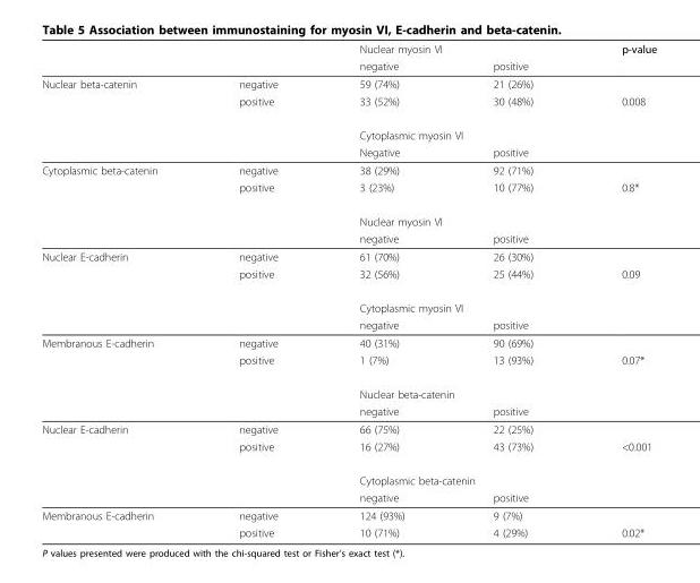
<table><thead><tr><td rowspan="2"></td><td rowspan="2"></td><td colspan="2">Nuclear myosin VI</td><td rowspan="2">p-value</td></tr><tr><td>negative</td><td>positive</td></tr></thead><tbody><tr><td rowspan="4">Nuclear beta-catenin</td><td>negative</td><td>59 (74%)</td><td>21 (26%)</td><td></td></tr><tr><td>positive</td><td>33 (52%)</td><td>30 (48%)</td><td>0.008</td></tr><tr><td></td><td colspan="2">Cytoplasmic myosin VI</td><td></td></tr><tr><td></td><td>Negative</td><td>positive</td><td></td></tr><tr><td rowspan="4">Cytoplasmic beta-catenin</td><td>negative</td><td>38 (29%)</td><td>92 (71%)</td><td></td></tr><tr><td>positive</td><td>3 (23%)</td><td>10 (77%)</td><td>0.8*</td></tr><tr><td></td><td colspan="2">Nuclear myosin VI</td><td></td></tr><tr><td></td><td>negative</td><td>positive</td><td></td></tr><tr><td rowspan="4">Nuclear E-cadherin</td><td>negative</td><td>61 (70%)</td><td>26 (30%)</td><td></td></tr><tr><td>positive</td><td>32 (56%)</td><td>25 (44%)</td><td>0.09</td></tr><tr><td></td><td colspan="2">Cytoplasmic myosin VI</td><td></td></tr><tr><td></td><td>negative</td><td>positive</td><td></td></tr><tr><td rowspan="4">Membranous E-cadherin</td><td>negative</td><td>40 (31%)</td><td>90 (69%)</td><td></td></tr><tr><td>positive</td><td>1 (7%)</td><td>13 (93%)</td><td>0.07*</td></tr><tr><td></td><td colspan="2">Nuclear beta-catenin</td><td></td></tr><tr><td></td><td>negative</td><td>positive</td><td></td></tr><tr><td rowspan="4">Nuclear E-cadherin</td><td>negative</td><td>66 (75%)</td><td>22 (25%)</td><td></td></tr><tr><td>positive</td><td>16 (27%)</td><td>43 (73%)</td><td>&lt;0.001</td></tr><tr><td></td><td colspan="2">Cytoplasmic beta-catenin</td><td></td></tr><tr><td></td><td>negative</td><td>positive</td><td></td></tr><tr><td rowspan="2">Membranous E-cadherin</td><td>negative</td><td>124 (93%)</td><td>9 (7%)</td><td></td></tr><tr><td>positive</td><td>10 (71%)</td><td>4 (29%)</td><td>0.02*</td></tr></tbody></table>